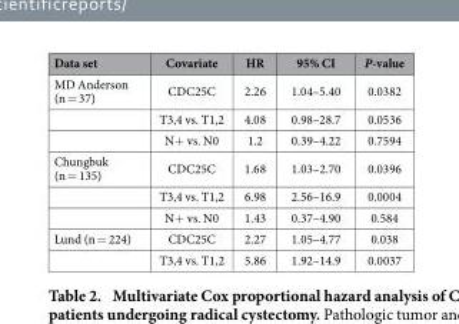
<table><thead><tr><td>Data set</td><td>Covariate</td><td>HR</td><td>95% CI</td><td>P-value</td></tr></thead><tbody><tr><td rowspan="3">MD Anderson (n = 37)</td><td>CDC25C</td><td>2.26</td><td>1.04–5.40</td><td>0.0382</td></tr><tr><td>T3,4 vs. T1,2</td><td>4.08</td><td>0.98–28.7</td><td>0.0536</td></tr><tr><td>N+ vs. N0</td><td>1.2</td><td>0.39–4.22</td><td>0.7594</td></tr><tr><td rowspan="3">Chungbuk (n = 135)</td><td>CDC25C</td><td>1.68</td><td>1.03–2.70</td><td>0.0396</td></tr><tr><td>T3,4 vs. T1,2</td><td>6.98</td><td>2.56–16.9</td><td>0.0004</td></tr><tr><td>N+ vs. N0</td><td>1.43</td><td>0.37–4.90</td><td>0.584</td></tr><tr><td rowspan="2">Lund (n = 224)</td><td>CDC25C</td><td>2.27</td><td>1.05–4.77</td><td>0.038</td></tr><tr><td>T3,4 vs. T1,2</td><td>5.86</td><td>1.92–14.9</td><td>0.0037</td></tr></tbody></table>